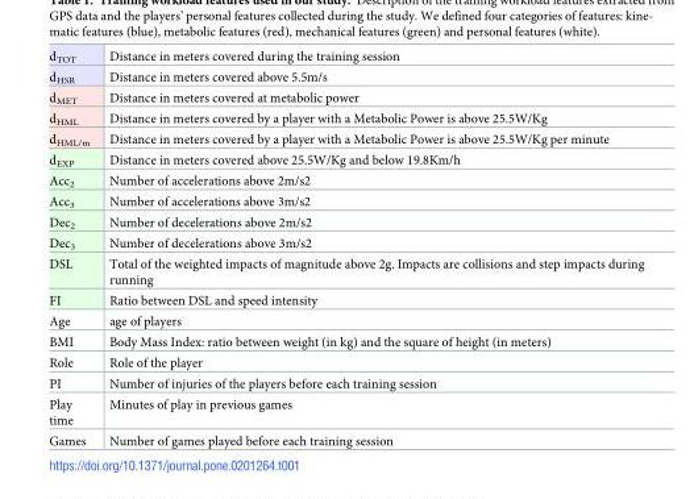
<table><tbody><tr><td>d<sub>TOT</sub></td><td>Distance in meters covered during the training session</td></tr><tr><td>d<sub>HSR</sub></td><td>Distance in meters covered above 5.5m/s</td></tr><tr><td>d<sub>MET</sub></td><td>Distance in meters covered at metabolic power</td></tr><tr><td>d<sub>HML</sub></td><td>Distance in meters covered by a player with a Metabolic Power is above 25.5W/Kg</td></tr><tr><td>d<sub>HML/m</sub></td><td>Distance in meters covered by a player with a Metabolic Power is above 25.5W/Kg per minute</td></tr><tr><td>d<sub>EXP</sub></td><td>Distance in meters covered above 25.5W/Kg and below 19.8Km/h</td></tr><tr><td>Acc<sub>2</sub></td><td>Number of accelerations above 2m/s2</td></tr><tr><td>Acc<sub>3</sub></td><td>Number of accelerations above 3m/s2</td></tr><tr><td>Dec<sub>2</sub></td><td>Number of decelerations above 2m/s2</td></tr><tr><td>Dec<sub>3</sub></td><td>Number of decelerations above 3m/s2</td></tr><tr><td>DSL</td><td>Total of the weighted impacts of magnitude above 2g. Impacts are collisions and step impacts during running</td></tr><tr><td>FI</td><td>Ratio between DSL and speed intensity</td></tr><tr><td>Age</td><td>age of players</td></tr><tr><td>BMI</td><td>Body Mass Index: ratio between weight (in kg) and the square of height (in meters)</td></tr><tr><td>Role</td><td>Role of the player</td></tr><tr><td>PI</td><td>Number of injuries of the players before each training session</td></tr><tr><td>Play time</td><td>Minutes of play in previous games</td></tr><tr><td>Games</td><td>Number of games played before each training session</td></tr></tbody></table>